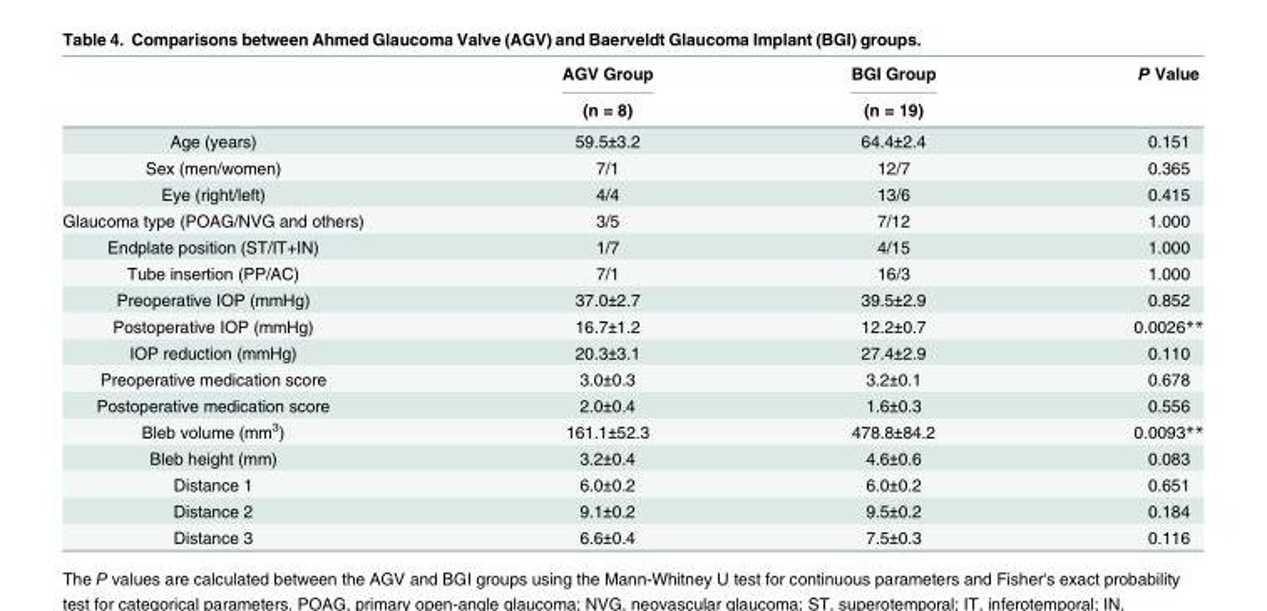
<table><thead><tr><td rowspan="2"></td><td rowspan="2">AGV Group (n = 8)</td><td rowspan="2">BGI Group (n = 19)</td><td rowspan="2">P Value</td></tr><tr></tr></thead><tbody><tr><td>Age (years)</td><td>59.5±3.2</td><td>64.4±2.4</td><td>0.151</td></tr><tr><td>Sex (men/women)</td><td>7/1</td><td>12/7</td><td>0.365</td></tr><tr><td>Eye (right/left)</td><td>4/4</td><td>13/6</td><td>0.415</td></tr><tr><td>Glaucoma type (POAG/NVG and others)</td><td>3/5</td><td>7/12</td><td>1.000</td></tr><tr><td>Endplate position (ST/IT+IN)</td><td>1/7</td><td>4/15</td><td>1.000</td></tr><tr><td>Tube insertion (PP/AC)</td><td>7/1</td><td>16/3</td><td>1.000</td></tr><tr><td>Preoperative IOP (mmHg)</td><td>37.0±2.7</td><td>39.5±2.9</td><td>0.852</td></tr><tr><td>Postoperative IOP (mmHg)</td><td>16.7±1.2</td><td>12.2±0.7</td><td>0.0026**</td></tr><tr><td>IOP reduction (mmHg)</td><td>20.3±3.1</td><td>27.4±2.9</td><td>0.110</td></tr><tr><td>Preoperative medication score</td><td>3.0±0.3</td><td>3.2±0.1</td><td>0.678</td></tr><tr><td>Postoperative medication score</td><td>2.0±0.4</td><td>1.6±0.3</td><td>0.556</td></tr><tr><td>Bleb volume (mm<sup>3</sup>)</td><td>161.1±52.3</td><td>478.8±84.2</td><td>0.0093**</td></tr><tr><td>Bleb height (mm)</td><td>3.2±0.4</td><td>4.6±0.6</td><td>0.083</td></tr><tr><td>Distance 1</td><td>6.0±0.2</td><td>6.0±0.2</td><td>0.651</td></tr><tr><td>Distance 2</td><td>9.1±0.2</td><td>9.5±0.2</td><td>0.184</td></tr><tr><td>Distance 3</td><td>6.6±0.4</td><td>7.5±0.3</td><td>0.116</td></tr></tbody></table>